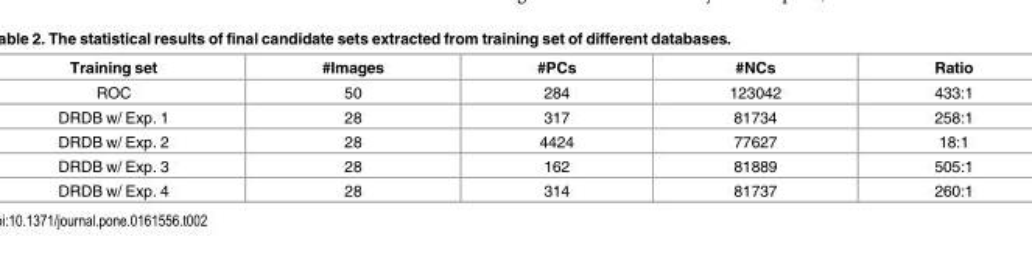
<table><thead><tr><td>Training set</td><td>#Images</td><td>#PCs</td><td>#NCs</td><td>Ratio</td></tr></thead><tbody><tr><td>ROC</td><td>50</td><td>284</td><td>123042</td><td>433:1</td></tr><tr><td>DRDB w/ Exp. 1</td><td>28</td><td>317</td><td>81734</td><td>258:1</td></tr><tr><td>DRDB w/ Exp. 2</td><td>28</td><td>4424</td><td>77627</td><td>18:1</td></tr><tr><td>DRDB w/ Exp. 3</td><td>28</td><td>162</td><td>81889</td><td>505:1</td></tr><tr><td>DRDB w/ Exp. 4</td><td>28</td><td>314</td><td>81737</td><td>260:1</td></tr></tbody></table>